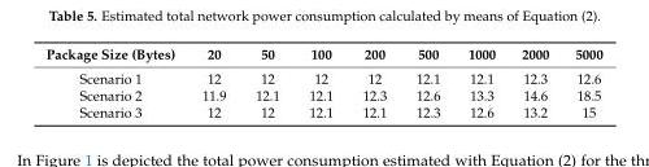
<table><thead><tr><td>Package Size (Bytes)</td><td>20</td><td>50</td><td>100</td><td>200</td><td>500</td><td>1000</td><td>2000</td><td>5000</td></tr></thead><tbody><tr><td>Scenario 1</td><td>12</td><td>12</td><td>12</td><td>12</td><td>12.1</td><td>12.1</td><td>12.3</td><td>12.6</td></tr><tr><td>Scenario 2</td><td>11.9</td><td>12.1</td><td>12.1</td><td>12.3</td><td>12.6</td><td>13.3</td><td>14.6</td><td>18.5</td></tr><tr><td>Scenario 3</td><td>12</td><td>12</td><td>12.1</td><td>12.1</td><td>12.3</td><td>12.6</td><td>13.2</td><td>15</td></tr></tbody></table>